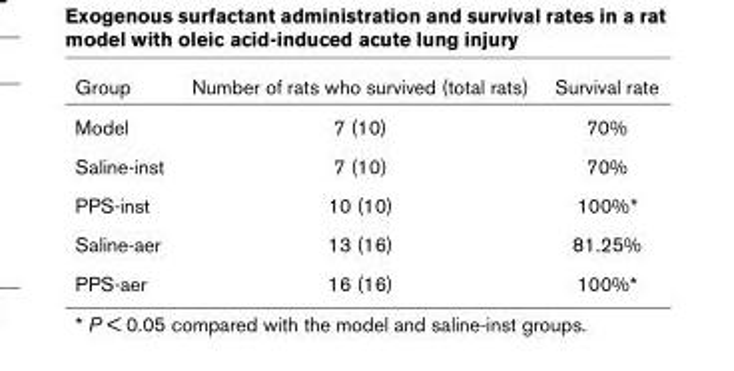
<table><thead><tr><td>Group</td><td>Number of rats who survived (total rats)</td><td>Survival rate</td></tr></thead><tbody><tr><td>Model</td><td>7 (10)</td><td>70%</td></tr><tr><td>Saline-inst</td><td>7 (10)</td><td>70%</td></tr><tr><td>PPS-inst</td><td>10 (10)</td><td>100%*</td></tr><tr><td>Saline-aer</td><td>13 (16)</td><td>81.25%</td></tr><tr><td>PPS-aer</td><td>16 (16)</td><td>100%*</td></tr></tbody></table>